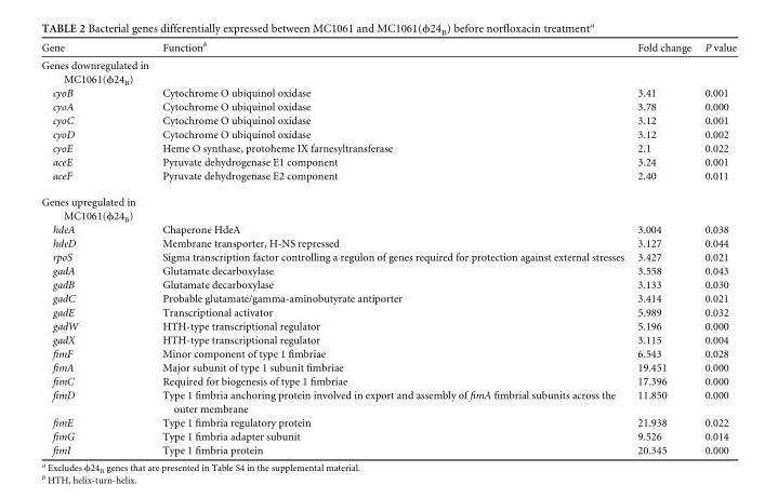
<table><thead><tr><td>Gene</td><td>Function<sup>b</sup></td><td>Fold change</td><td>P value</td></tr></thead><tbody><tr><td colspan="4">Genes downregulated in MC1061(ϕ24<sub>B</sub>)</td></tr><tr><td>cyoB</td><td>Cytochrome O ubiquinol oxidase</td><td>3.41</td><td>0.001</td></tr><tr><td>cyoA</td><td>Cytochrome O ubiquinol oxidase</td><td>3.78</td><td>0.000</td></tr><tr><td>cyoC</td><td>Cytochrome O ubiquinol oxidase</td><td>3.12</td><td>0.001</td></tr><tr><td>cyoD</td><td>Cytochrome O ubiquinol oxidase</td><td>3.12</td><td>0.002</td></tr><tr><td>cyoE</td><td>Heme O synthase, protoheme IX farnesyltransferase</td><td>2.1</td><td>0.022</td></tr><tr><td>aceE</td><td>Pyruvate dehydrogenase E1 component</td><td>3.24</td><td>0.001</td></tr><tr><td>aceF</td><td>Pyruvate dehydrogenase E2 component</td><td>2.40</td><td>0.011</td></tr><tr><td colspan="4">Genes upregulated in MC1061(ϕ24<sub>B</sub>)</td></tr><tr><td>hdeA</td><td>Chaperone HdeA</td><td>3.004</td><td>0.038</td></tr><tr><td>hdeD</td><td>Membrane transporter, H-NS repressed</td><td>3.127</td><td>0.044</td></tr><tr><td>rpoS</td><td>Sigma transcription factor controlling a regulon of genes required for protection against external stresses</td><td>3.427</td><td>0.021</td></tr><tr><td>gadA</td><td>Glutamate decarboxylase</td><td>3.558</td><td>0.043</td></tr><tr><td>gadB</td><td>Glutamate decarboxylase</td><td>3.133</td><td>0.030</td></tr><tr><td>gadC</td><td>Probable glutamate/gamma-aminobutyrate antiporter</td><td>3.414</td><td>0.021</td></tr><tr><td>gadE</td><td>Transcriptional activator</td><td>5.989</td><td>0.032</td></tr><tr><td>gadW</td><td>HTH-type transcriptional regulator</td><td>5.196</td><td>0.000</td></tr><tr><td>gadX</td><td>HTH-type transcriptional regulator</td><td>3.115</td><td>0.004</td></tr><tr><td>fimF</td><td>Minor component of type 1 fimbriae</td><td>6.543</td><td>0.028</td></tr><tr><td>fimA</td><td>Major subunit of type 1 subunit fimbriae</td><td>19.451</td><td>0.000</td></tr><tr><td>fimC</td><td>Required for biogenesis of type 1 fimbriae</td><td>17.396</td><td>0.000</td></tr><tr><td>fimD</td><td>Type 1 fimbria anchoring protein involved in export and assembly of fimA fimbrial subunits across the outer membrane</td><td>11.850</td><td>0.000</td></tr><tr><td>fimE</td><td>Type 1 fimbria regulatory protein</td><td>21.938</td><td>0.022</td></tr><tr><td>fimG</td><td>Type 1 fimbria adapter subunit</td><td>9.526</td><td>0.014</td></tr><tr><td>fimI</td><td>Type 1 fimbria protein</td><td>20.345</td><td>0.000</td></tr></tbody></table>